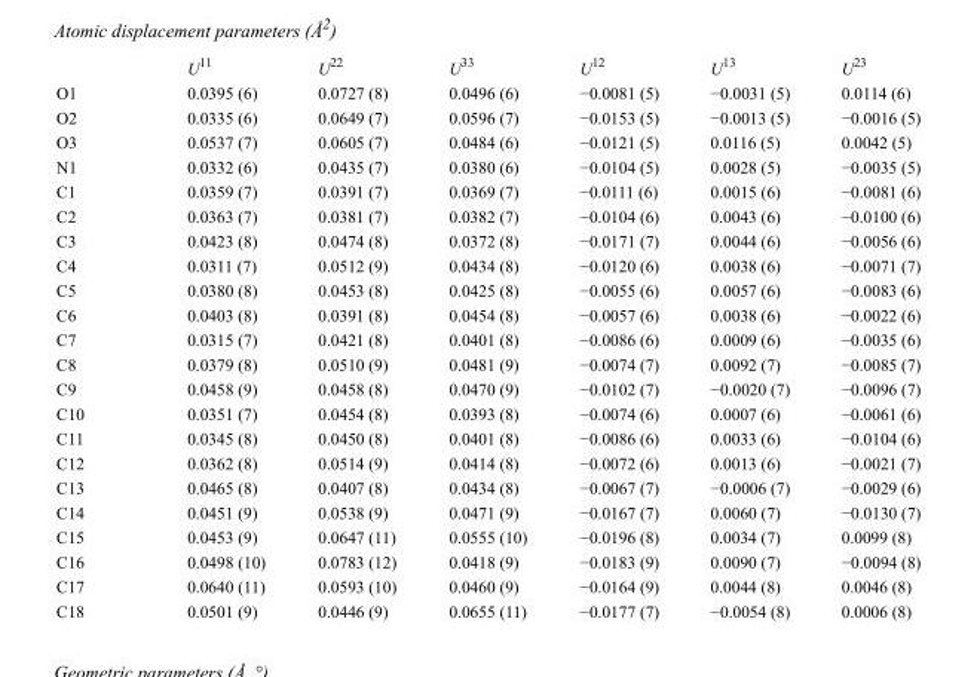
<table><thead><tr><td></td><td>U<sup>11</sup></td><td>U<sup>22</sup></td><td>U<sup>33</sup></td><td>U<sup>12</sup></td><td>U<sup>13</sup></td><td>U<sup>23</sup></td></tr></thead><tbody><tr><td>O1</td><td>0.0395 (6)</td><td>0.0727 (8)</td><td>0.0496 (6)</td><td>−0.0081 (5)</td><td>−0.0031 (5)</td><td>0.0114 (6)</td></tr><tr><td>O2</td><td>0.0335 (6)</td><td>0.0649 (7)</td><td>0.0596 (7)</td><td>−0.0153 (5)</td><td>−0.0013 (5)</td><td>−0.0016 (5)</td></tr><tr><td>O3</td><td>0.0537 (7)</td><td>0.0605 (7)</td><td>0.0484 (6)</td><td>−0.0121 (5)</td><td>0.0116 (5)</td><td>0.0042 (5)</td></tr><tr><td>N1</td><td>0.0332 (6)</td><td>0.0435 (7)</td><td>0.0380 (6)</td><td>−0.0104 (5)</td><td>0.0028 (5)</td><td>−0.0035 (5)</td></tr><tr><td>C1</td><td>0.0359 (7)</td><td>0.0391 (7)</td><td>0.0369 (7)</td><td>−0.0111 (6)</td><td>0.0015 (6)</td><td>−0.0081 (6)</td></tr><tr><td>C2</td><td>0.0363 (7)</td><td>0.0381 (7)</td><td>0.0382 (7)</td><td>−0.0104 (6)</td><td>0.0043 (6)</td><td>−0.0100 (6)</td></tr><tr><td>C3</td><td>0.0423 (8)</td><td>0.0474 (8)</td><td>0.0372 (8)</td><td>−0.0171 (7)</td><td>0.0044 (6)</td><td>−0.0056 (6)</td></tr><tr><td>C4</td><td>0.0311 (7)</td><td>0.0512 (9)</td><td>0.0434 (8)</td><td>−0.0120 (6)</td><td>0.0038 (6)</td><td>−0.0071 (7)</td></tr><tr><td>C5</td><td>0.0380 (8)</td><td>0.0453 (8)</td><td>0.0425 (8)</td><td>−0.0055 (6)</td><td>0.0057 (6)</td><td>−0.0083 (6)</td></tr><tr><td>C6</td><td>0.0403 (8)</td><td>0.0391 (8)</td><td>0.0454 (8)</td><td>−0.0057 (6)</td><td>0.0038 (6)</td><td>−0.0022 (6)</td></tr><tr><td>C7</td><td>0.0315 (7)</td><td>0.0421 (8)</td><td>0.0401 (8)</td><td>−0.0086 (6)</td><td>0.0009 (6)</td><td>−0.0035 (6)</td></tr><tr><td>C8</td><td>0.0379 (8)</td><td>0.0510 (9)</td><td>0.0481 (9)</td><td>−0.0074 (7)</td><td>0.0092 (7)</td><td>−0.0085 (7)</td></tr><tr><td>C9</td><td>0.0458 (9)</td><td>0.0458 (8)</td><td>0.0470 (9)</td><td>−0.0102 (7)</td><td>−0.0020 (7)</td><td>−0.0096 (7)</td></tr><tr><td>C10</td><td>0.0351 (7)</td><td>0.0454 (8)</td><td>0.0393 (8)</td><td>−0.0074 (6)</td><td>0.0007 (6)</td><td>−0.0061 (6)</td></tr><tr><td>C11</td><td>0.0345 (8)</td><td>0.0450 (8)</td><td>0.0401 (8)</td><td>−0.0086 (6)</td><td>0.0033 (6)</td><td>−0.0104 (6)</td></tr><tr><td>C12</td><td>0.0362 (8)</td><td>0.0514 (9)</td><td>0.0414 (8)</td><td>−0.0072 (6)</td><td>0.0013 (6)</td><td>−0.0021 (7)</td></tr><tr><td>C13</td><td>0.0465 (8)</td><td>0.0407 (8)</td><td>0.0434 (8)</td><td>−0.0067 (7)</td><td>−0.0006 (7)</td><td>−0.0029 (6)</td></tr><tr><td>C14</td><td>0.0451 (9)</td><td>0.0538 (9)</td><td>0.0471 (9)</td><td>−0.0167 (7)</td><td>0.0060 (7)</td><td>−0.0130 (7)</td></tr><tr><td>C15</td><td>0.0453 (9)</td><td>0.0647 (11)</td><td>0.0555 (10)</td><td>−0.0196 (8)</td><td>0.0034 (7)</td><td>0.0099 (8)</td></tr><tr><td>C16</td><td>0.0498 (10)</td><td>0.0783 (12)</td><td>0.0418 (9)</td><td>−0.0183 (9)</td><td>0.0090 (7)</td><td>−0.0094 (8)</td></tr><tr><td>C17</td><td>0.0640 (11)</td><td>0.0593 (10)</td><td>0.0460 (9)</td><td>−0.0164 (9)</td><td>0.0044 (8)</td><td>0.0046 (8)</td></tr><tr><td>C18</td><td>0.0501 (9)</td><td>0.0446 (9)</td><td>0.0655 (11)</td><td>−0.0177 (7)</td><td>−0.0054 (8)</td><td>0.0006 (8)</td></tr></tbody></table>